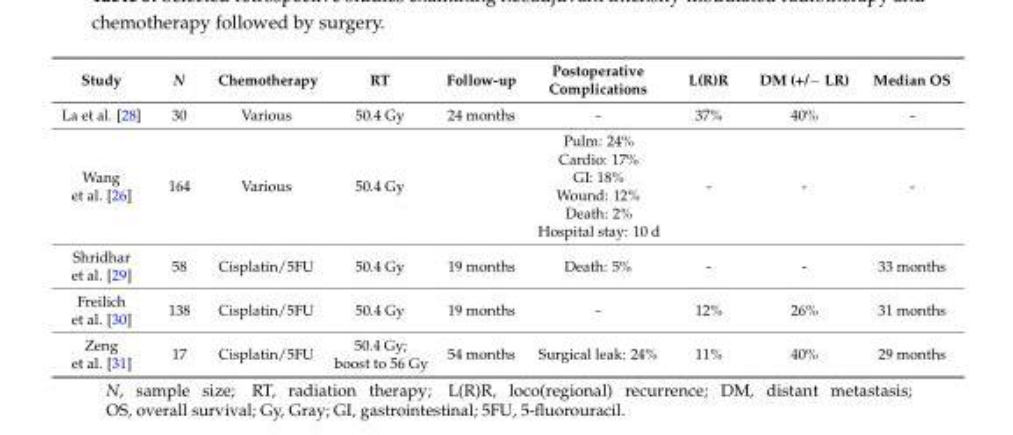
<table><thead><tr><td>Study</td><td>N</td><td>Chemotherapy</td><td>RT</td><td>Follow-up</td><td>Postoperative Complications</td><td>L(R)R</td><td>DM (+/− LR)</td><td>Median OS</td></tr></thead><tbody><tr><td>La et al. [28]</td><td>30</td><td>Various</td><td>50.4 Gy</td><td>24 months</td><td>-</td><td>37%</td><td>40%</td><td>-</td></tr><tr><td>Wang et al. [26]</td><td>164</td><td>Various</td><td>50.4 Gy</td><td></td><td>Pulm: 24% Cardio: 17% GI: 18% Wound: 12% Death: 2% Hospital stay: 10 d</td><td>-</td><td>-</td><td>-</td></tr><tr><td>Shridhar et al. [29]</td><td>58</td><td>Cisplatin/5FU</td><td>50.4 Gy</td><td>19 months</td><td>Death: 5%</td><td>-</td><td>-</td><td>33 months</td></tr><tr><td>Freilich et al. [30]</td><td>138</td><td>Cisplatin/5FU</td><td>50.4 Gy</td><td>19 months</td><td>-</td><td>12%</td><td>26%</td><td>31 months</td></tr><tr><td>Zeng et al. [31]</td><td>17</td><td>Cisplatin/5FU</td><td>50.4 Gy; boost to 56 Gy</td><td>54 months</td><td>Surgical leak: 24%</td><td>11%</td><td>40%</td><td>29 months</td></tr></tbody></table>